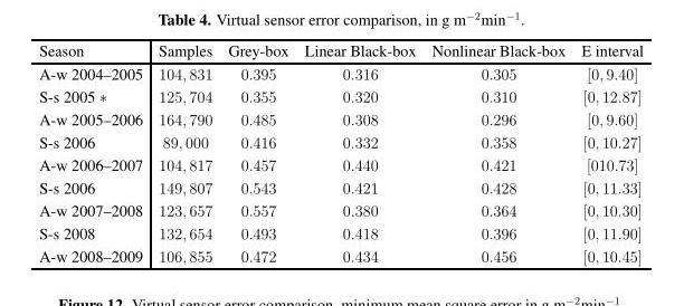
<table><thead><tr><td>Season</td><td>Samples</td><td>Grey-box</td><td>Linear Black-box</td><td>Nonlinear Black-box</td><td>E interval</td></tr></thead><tbody><tr><td>A-w 2004–2005</td><td>104, 831</td><td>0.395</td><td>0.316</td><td>0.305</td><td>[0, 9.40]</td></tr><tr><td>S-s 2005 ∗</td><td>125, 704</td><td>0.355</td><td>0.320</td><td>0.310</td><td>[0, 12.87]</td></tr><tr><td>A-w 2005–2006</td><td>164, 790</td><td>0.485</td><td>0.308</td><td>0.296</td><td>[0, 9.60]</td></tr><tr><td>S-s 2006</td><td>89, 000</td><td>0.416</td><td>0.332</td><td>0.358</td><td>[0, 10.27]</td></tr><tr><td>A-w 2006–2007</td><td>104, 817</td><td>0.457</td><td>0.440</td><td>0.421</td><td>[010.73]</td></tr><tr><td>S-s 2006</td><td>149, 807</td><td>0.543</td><td>0.421</td><td>0.428</td><td>[0, 11.33]</td></tr><tr><td>A-w 2007–2008</td><td>123, 657</td><td>0.557</td><td>0.380</td><td>0.364</td><td>[0, 10.30]</td></tr><tr><td>S-s 2008</td><td>132, 654</td><td>0.493</td><td>0.418</td><td>0.396</td><td>[0, 11.90]</td></tr><tr><td>A-w 2008–2009</td><td>106, 855</td><td>0.472</td><td>0.434</td><td>0.456</td><td>[0, 10.45]</td></tr></tbody></table>